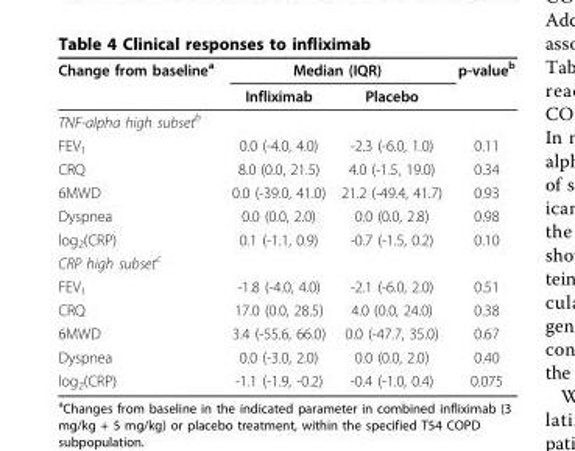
<table><thead><tr><td rowspan="2">Change from baseline<sup>a</sup></td><td colspan="2">Median (IQR)</td><td rowspan="2">p-value<sup>b</sup></td></tr><tr><td>Infliximab</td><td>Placebo</td></tr></thead><tbody><tr><td colspan="4">TNF-alpha high subset<sup>b</sup></td></tr><tr><td>FEV<sub>1</sub></td><td>0.0 (-4.0, 4.0)</td><td>-2.3 (-6.0, 1.0)</td><td>0.11</td></tr><tr><td>CRQ</td><td>8.0 (0.0, 21.5)</td><td>4.0 (-1.5, 19.0)</td><td>0.34</td></tr><tr><td>6MWD</td><td>0.0 (-39.0, 41.0)</td><td>21.2 (-49.4, 41.7)</td><td>0.93</td></tr><tr><td>Dyspnea</td><td>0.0 (0.0, 2.0)</td><td>0.0 (0.0, 2.8)</td><td>0.98</td></tr><tr><td>log<sub>2</sub>(CRP)</td><td>0.1 (-1.1, 0.9)</td><td>-0.7 (-1.5, 0.2)</td><td>0.10</td></tr><tr><td colspan="4">CRP high subset<sup>c</sup></td></tr><tr><td>FEV<sub>1</sub></td><td>-1.8 (-4.0, 4.0)</td><td>-2.1 (-6.0, 2.0)</td><td>0.51</td></tr><tr><td>CRQ</td><td>17.0 (0.0, 28.5)</td><td>4.0 (0.0, 24.0)</td><td>0.38</td></tr><tr><td>6MWD</td><td>3.4 (-55.6, 66.0)</td><td>0.0 (-47.7, 35.0)</td><td>0.67</td></tr><tr><td>Dyspnea</td><td>0.0 (-3.0, 2.0)</td><td>0.0 (0.0, 2.0)</td><td>0.40</td></tr><tr><td>log<sub>2</sub>(CRP)</td><td>-1.1 (-1.9, -0.2)</td><td>-0.4 (-1.0, 0.4)</td><td>0.075</td></tr></tbody></table>